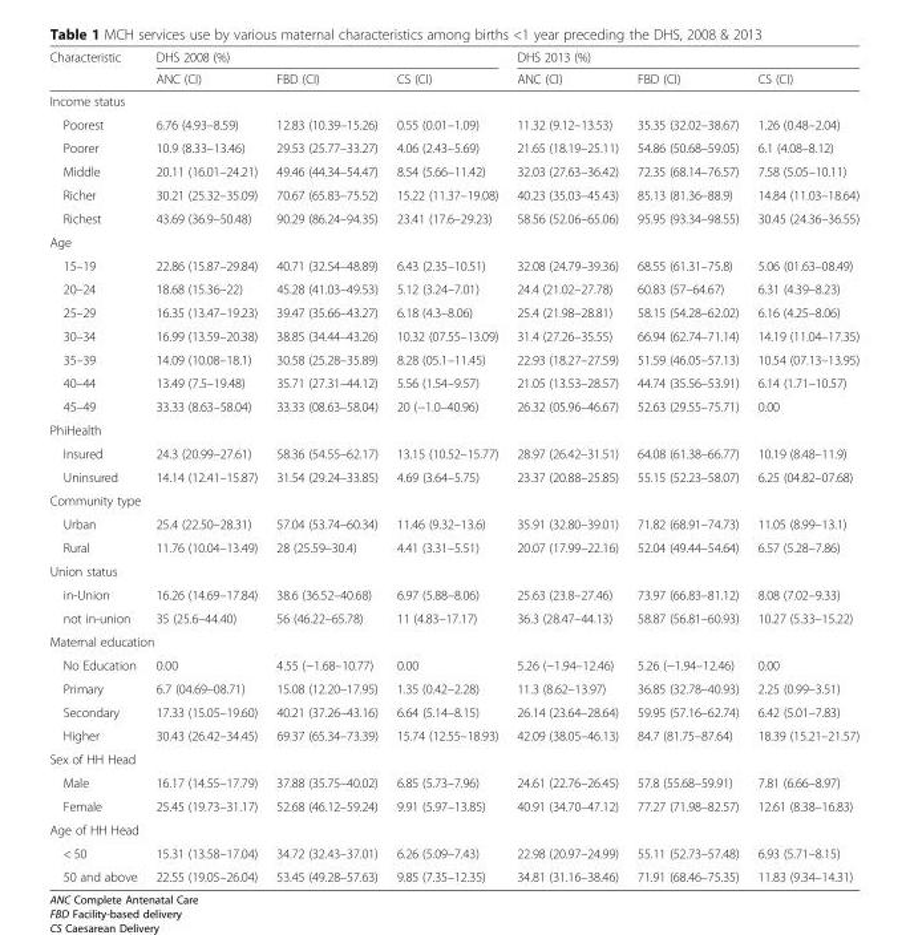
<table><thead><tr><td rowspan="2">Characteristic</td><td colspan="3">DHS 2008 (%)</td><td colspan="3">DHS 2013 (%)</td></tr><tr><td>ANC (CI)</td><td>FBD (CI)</td><td>CS (CI)</td><td>ANC (CI)</td><td>FBD (CI)</td><td>CS (CI)</td></tr></thead><tbody><tr><td colspan="7">Income status</td></tr><tr><td>Poorest</td><td>6.76 (4.93–8.59)</td><td>12.83 (10.39–15.26)</td><td>0.55 (0.01–1.09)</td><td>11.32 (9.12–13.53)</td><td>35.35 (32.02–38.67)</td><td>1.26 (0.48–2.04)</td></tr><tr><td>Poorer</td><td>10.9 (8.33–13.46)</td><td>29.53 (25.77–33.27)</td><td>4.06 (2.43–5.69)</td><td>21.65 (18.19–25.11)</td><td>54.86 (50.68–59.05)</td><td>6.1 (4.08–8.12)</td></tr><tr><td>Middle</td><td>20.11 (16.01–24.21)</td><td>49.46 (44.34–54.47)</td><td>8.54 (5.66–11.42)</td><td>32.03 (27.63–36.42)</td><td>72.35 (68.14–76.57)</td><td>7.58 (5.05–10.11)</td></tr><tr><td>Richer</td><td>30.21 (25.32–35.09)</td><td>70.67 (65.83–75.52)</td><td>15.22 (11.37–19.08)</td><td>40.23 (35.03–45.43)</td><td>85.13 (81.36–88.9)</td><td>14.84 (11.03–18.64)</td></tr><tr><td>Richest</td><td>43.69 (36.9–50.48)</td><td>90.29 (86.24–94.35)</td><td>23.41 (17.6–29.23)</td><td>58.56 (52.06–65.06)</td><td>95.95 (93.34–98.55)</td><td>30.45 (24.36–36.55)</td></tr><tr><td colspan="7">Age</td></tr><tr><td>15–19</td><td>22.86 (15.87–29.84)</td><td>40.71 (32.54–48.89)</td><td>6.43 (2.35–10.51)</td><td>32.08 (24.79–39.36)</td><td>68.55 (61.31–75.8)</td><td>5.06 (01.63–08.49)</td></tr><tr><td>20–24</td><td>18.68 (15.36–22)</td><td>45.28 (41.03–49.53)</td><td>5.12 (3.24–7.01)</td><td>24.4 (21.02–27.78)</td><td>60.83 (57–64.67)</td><td>6.31 (4.39–8.23)</td></tr><tr><td>25–29</td><td>16.35 (13.47–19.23)</td><td>39.47 (35.66–43.27)</td><td>6.18 (4.3–8.06)</td><td>25.4 (21.98–28.81)</td><td>58.15 (54.28–62.02)</td><td>6.16 (4.25–8.06)</td></tr><tr><td>30–34</td><td>16.99 (13.59–20.38)</td><td>38.85 (34.44–43.26)</td><td>10.32 (07.55–13.09)</td><td>31.4 (27.26–35.55)</td><td>66.94 (62.74–71.14)</td><td>14.19 (11.04–17.35)</td></tr><tr><td>35–39</td><td>14.09 (10.08–18.1)</td><td>30.58 (25.28–35.89)</td><td>8.28 (05.1–11.45)</td><td>22.93 (18.27–27.59)</td><td>51.59 (46.05–57.13)</td><td>10.54 (07.13–13.95)</td></tr><tr><td>40–44</td><td>13.49 (7.5–19.48)</td><td>35.71 (27.31–44.12)</td><td>5.56 (1.54–9.57)</td><td>21.05 (13.53–28.57)</td><td>44.74 (35.56–53.91)</td><td>6.14 (1.71–10.57)</td></tr><tr><td>45–49</td><td>33.33 (8.63–58.04)</td><td>33.33 (08.63–58.04)</td><td>20 (−1.0–40.96)</td><td>26.32 (05.96–46.67)</td><td>52.63 (29.55–75.71)</td><td>0.00</td></tr><tr><td colspan="7">PhiHealth</td></tr><tr><td>Insured</td><td>24.3 (20.99–27.61)</td><td>58.36 (54.55–62.17)</td><td>13.15 (10.52–15.77)</td><td>28.97 (26.42–31.51)</td><td>64.08 (61.38–66.77)</td><td>10.19 (8.48–11.9)</td></tr><tr><td>Uninsured</td><td>14.14 (12.41–15.87)</td><td>31.54 (29.24–33.85)</td><td>4.69 (3.64–5.75)</td><td>23.37 (20.88–25.85)</td><td>55.15 (52.23–58.07)</td><td>6.25 (04.82–07.68)</td></tr><tr><td colspan="7">Community type</td></tr><tr><td>Urban</td><td>25.4 (22.50–28.31)</td><td>57.04 (53.74–60.34)</td><td>11.46 (9.32–13.6)</td><td>35.91 (32.80–39.01)</td><td>71.82 (68.91–74.73)</td><td>11.05 (8.99–13.1)</td></tr><tr><td>Rural</td><td>11.76 (10.04–13.49)</td><td>28 (25.59–30.4)</td><td>4.41 (3.31–5.51)</td><td>20.07 (17.99–22.16)</td><td>52.04 (49.44–54.64)</td><td>6.57 (5.28–7.86)</td></tr><tr><td colspan="7">Union status</td></tr><tr><td>in-Union</td><td>16.26 (14.69–17.84)</td><td>38.6 (36.52–40.68)</td><td>6.97 (5.88–8.06)</td><td>25.63 (23.8–27.46)</td><td>73.97 (66.83–81.12)</td><td>8.08 (7.02–9.33)</td></tr><tr><td>not in-union</td><td>35 (25.6–44.40)</td><td>56 (46.22–65.78)</td><td>11 (4.83–17.17)</td><td>36.3 (28.47–44.13)</td><td>58.87 (56.81–60.93)</td><td>10.27 (5.33–15.22)</td></tr><tr><td colspan="7">Maternal education</td></tr><tr><td>No Education</td><td>0.00</td><td>4.55 (−1.68–10.77)</td><td>0.00</td><td>5.26 (−1.94–12.46)</td><td>5.26 (−1.94–12.46)</td><td>0.00</td></tr><tr><td>Primary</td><td>6.7 (04.69–08.71)</td><td>15.08 (12.20–17.95)</td><td>1.35 (0.42–2.28)</td><td>11.3 (8.62–13.97)</td><td>36.85 (32.78–40.93)</td><td>2.25 (0.99–3.51)</td></tr><tr><td>Secondary</td><td>17.33 (15.05–19.60)</td><td>40.21 (37.26–43.16)</td><td>6.64 (5.14–8.15)</td><td>26.14 (23.64–28.64)</td><td>59.95 (57.16–62.74)</td><td>6.42 (5.01–7.83)</td></tr><tr><td>Higher</td><td>30.43 (26.42–34.45)</td><td>69.37 (65.34–73.39)</td><td>15.74 (12.55–18.93)</td><td>42.09 (38.05–46.13)</td><td>84.7 (81.75–87.64)</td><td>18.39 (15.21–21.57)</td></tr><tr><td colspan="7">Sex of HH Head</td></tr><tr><td>Male</td><td>16.17 (14.55–17.79)</td><td>37.88 (35.75–40.02)</td><td>6.85 (5.73–7.96)</td><td>24.61 (22.76–26.45)</td><td>57.8 (55.68–59.91)</td><td>7.81 (6.66–8.97)</td></tr><tr><td>Female</td><td>25.45 (19.73–31.17)</td><td>52.68 (46.12–59.24)</td><td>9.91 (5.97–13.85)</td><td>40.91 (34.70–47.12)</td><td>77.27 (71.98–82.57)</td><td>12.61 (8.38–16.83)</td></tr><tr><td colspan="7">Age of HH Head</td></tr><tr><td>&lt; 50</td><td>15.31 (13.58–17.04)</td><td>34.72 (32.43–37.01)</td><td>6.26 (5.09–7.43)</td><td>22.98 (20.97–24.99)</td><td>55.11 (52.73–57.48)</td><td>6.93 (5.71–8.15)</td></tr><tr><td>50 and above</td><td>22.55 (19.05–26.04)</td><td>53.45 (49.28–57.63)</td><td>9.85 (7.35–12.35)</td><td>34.81 (31.16–38.46)</td><td>71.91 (68.46–75.35)</td><td>11.83 (9.34–14.31)</td></tr></tbody></table>